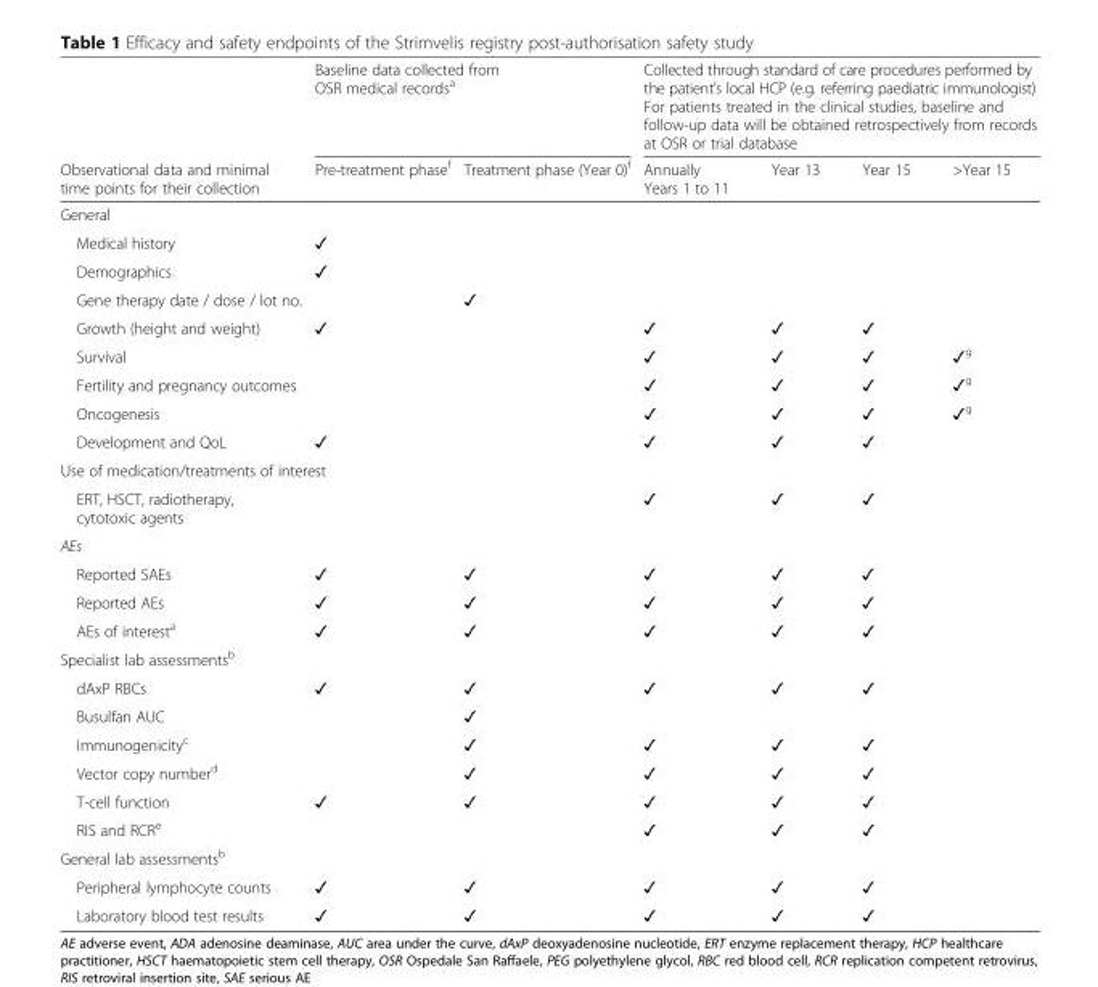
<table><thead><tr><td rowspan="2">Observational data and minimal time points for their collection</td><td colspan="2">Baseline data collected from OSR medical records<sup>a</sup></td><td colspan="4">Collected through standard of care procedures performed by the patient’s local HCP (e.g. referring paediatric immunologist) For patients treated in the clinical studies, baseline and follow-up data will be obtained retrospectively from records at OSR or trial database</td></tr><tr><td>Pre-treatment phase<sup>f</sup></td><td>Treatment phase (Year 0)<sup>f</sup></td><td>Annually Years 1 to 11</td><td>Year 13</td><td>Year 15</td><td>&gt;Year 15</td></tr></thead><tbody><tr><td colspan="7">General</td></tr><tr><td>Medical history</td><td>✓</td><td></td><td></td><td></td><td></td><td></td></tr><tr><td>Demographics</td><td>✓</td><td></td><td></td><td></td><td></td><td></td></tr><tr><td>Gene therapy date / dose / lot no.</td><td></td><td>✓</td><td></td><td></td><td></td><td></td></tr><tr><td>Growth (height and weight)</td><td>✓</td><td></td><td>✓</td><td>✓</td><td>✓</td><td></td></tr><tr><td>Survival</td><td></td><td></td><td>✓</td><td>✓</td><td>✓</td><td>✓<sup>g</sup></td></tr><tr><td>Fertility and pregnancy outcomes</td><td></td><td></td><td>✓</td><td>✓</td><td>✓</td><td>✓<sup>g</sup></td></tr><tr><td>Oncogenesis</td><td></td><td></td><td>✓</td><td>✓</td><td>✓</td><td>✓<sup>g</sup></td></tr><tr><td>Development and QoL</td><td>✓</td><td></td><td>✓</td><td>✓</td><td>✓</td><td></td></tr><tr><td colspan="7">Use of medication/treatments of interest</td></tr><tr><td>ERT, HSCT, radiotherapy, cytotoxic agents</td><td></td><td></td><td>✓</td><td>✓</td><td>✓</td><td></td></tr><tr><td colspan="7">AEs</td></tr><tr><td>Reported SAEs</td><td>✓</td><td>✓</td><td>✓</td><td>✓</td><td>✓</td><td></td></tr><tr><td>Reported AEs</td><td>✓</td><td>✓</td><td>✓</td><td>✓</td><td>✓</td><td></td></tr><tr><td>AEs of interest<sup>a</sup></td><td>✓</td><td>✓</td><td>✓</td><td>✓</td><td>✓</td><td></td></tr><tr><td colspan="7">Specialist lab assessments<sup>b</sup></td></tr><tr><td>dAxP RBCs</td><td>✓</td><td>✓</td><td>✓</td><td>✓</td><td>✓</td><td></td></tr><tr><td>Busulfan AUC</td><td></td><td>✓</td><td></td><td></td><td></td><td></td></tr><tr><td>Immunogenicity<sup>c</sup></td><td></td><td>✓</td><td>✓</td><td>✓</td><td>✓</td><td></td></tr><tr><td>Vector copy number<sup>d</sup></td><td></td><td>✓</td><td>✓</td><td>✓</td><td>✓</td><td></td></tr><tr><td>T-cell function</td><td>✓</td><td>✓</td><td>✓</td><td>✓</td><td>✓</td><td></td></tr><tr><td>RIS and RCR<sup>e</sup></td><td></td><td></td><td>✓</td><td>✓</td><td>✓</td><td></td></tr><tr><td colspan="7">General lab assessments<sup>b</sup></td></tr><tr><td>Peripheral lymphocyte counts</td><td>✓</td><td>✓</td><td>✓</td><td>✓</td><td>✓</td><td></td></tr><tr><td>Laboratory blood test results</td><td>✓</td><td>✓</td><td>✓</td><td>✓</td><td>✓</td><td></td></tr></tbody></table>